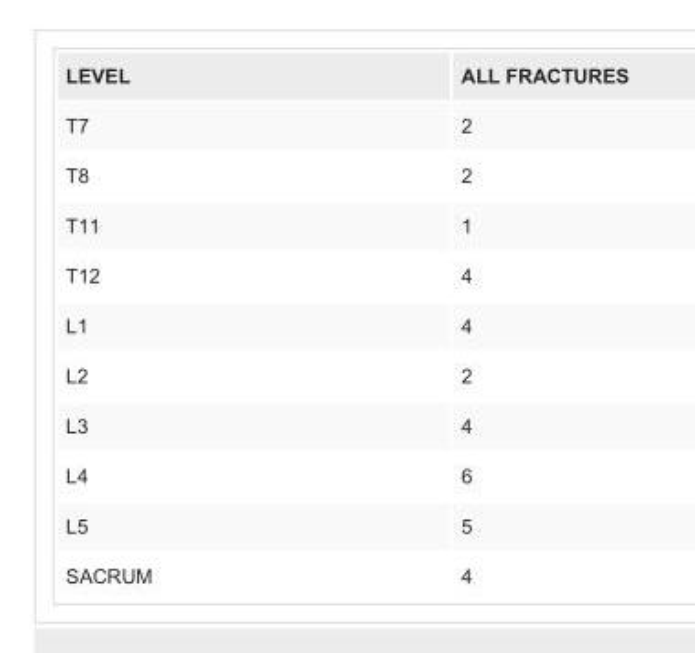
<table><tbody><tr><td>LEVEL</td><td>ALL FRACTURES</td></tr><tr><td>T7</td><td>2</td></tr><tr><td>T8</td><td>2</td></tr><tr><td>T11</td><td>1</td></tr><tr><td>T12</td><td>4</td></tr><tr><td>L1</td><td>4</td></tr><tr><td>L2</td><td>2</td></tr><tr><td>L3</td><td>4</td></tr><tr><td>L4</td><td>6</td></tr><tr><td>L5</td><td>5</td></tr><tr><td>SACRUM</td><td>4</td></tr></tbody></table>